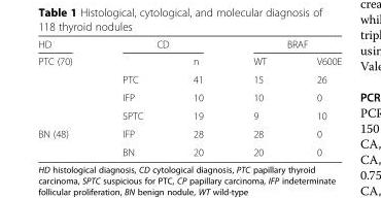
<table><tbody><tr><td>HD</td><td colspan="2">CD</td><td colspan="2">BRAF</td></tr><tr><td rowspan="4">PTC (70)</td><td></td><td>n</td><td>WT</td><td>V600E</td></tr><tr><td>PTC</td><td>41</td><td>15</td><td>26</td></tr><tr><td>IFP</td><td>10</td><td>10</td><td>0</td></tr><tr><td>SPTC</td><td>19</td><td>9</td><td>10</td></tr><tr><td rowspan="2">BN (48)</td><td>IFP</td><td>28</td><td>28</td><td>0</td></tr><tr><td>BN</td><td>20</td><td>20</td><td>0</td></tr></tbody></table>